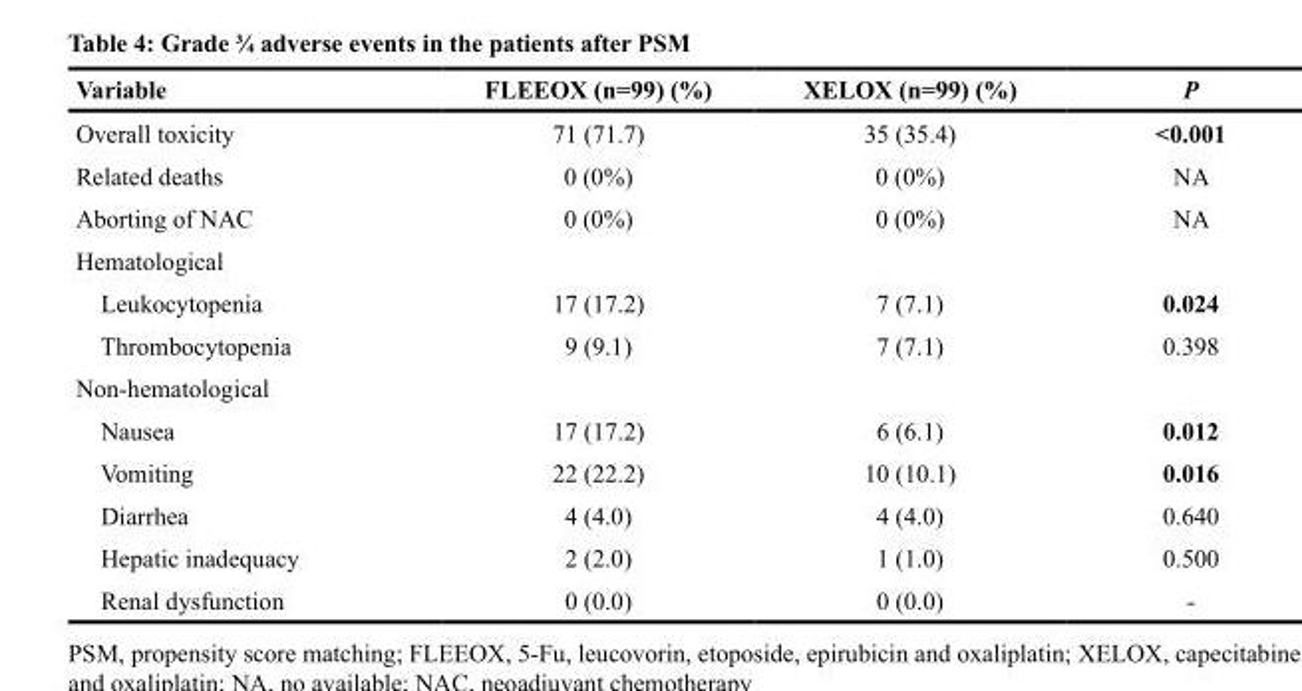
<table><thead><tr><td>Variable</td><td>FLEEOX (n=99) (%)</td><td>XELOX (n=99) (%)</td><td>P</td></tr></thead><tbody><tr><td>Overall toxicity</td><td>71 (71.7)</td><td>35 (35.4)</td><td>&lt;0.001</td></tr><tr><td>Related deaths</td><td>0 (0%)</td><td>0 (0%)</td><td>NA</td></tr><tr><td>Aborting of NAC</td><td>0 (0%)</td><td>0 (0%)</td><td>NA</td></tr><tr><td colspan="4">Hematological</td></tr><tr><td>Leukocytopenia</td><td>17 (17.2)</td><td>7 (7.1)</td><td>0.024</td></tr><tr><td>Thrombocytopenia</td><td>9 (9.1)</td><td>7 (7.1)</td><td>0.398</td></tr><tr><td colspan="4">Non-hematological</td></tr><tr><td>Nausea</td><td>17 (17.2)</td><td>6 (6.1)</td><td>0.012</td></tr><tr><td>Vomiting</td><td>22 (22.2)</td><td>10 (10.1)</td><td>0.016</td></tr><tr><td>Diarrhea</td><td>4 (4.0)</td><td>4 (4.0)</td><td>0.640</td></tr><tr><td>Hepatic inadequacy</td><td>2 (2.0)</td><td>1 (1.0)</td><td>0.500</td></tr><tr><td>Renal dysfunction</td><td>0 (0.0)</td><td>0 (0.0)</td><td>-</td></tr></tbody></table>